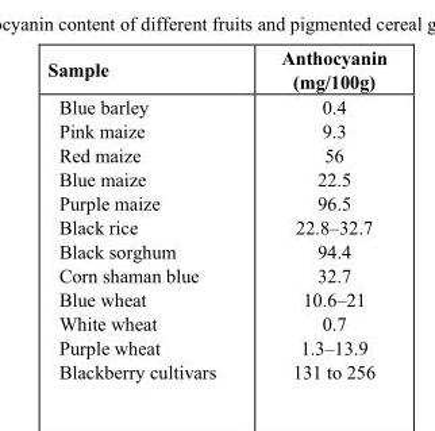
<table><thead><tr><td>Sample</td><td>Anthocyanin (mg/100g)</td></tr></thead><tbody><tr><td>Blue barley</td><td>0.4</td></tr><tr><td>Pink maize</td><td>9.3</td></tr><tr><td>Red maize</td><td>56</td></tr><tr><td>Blue maize</td><td>22.5</td></tr><tr><td>Purple maize</td><td>96.5</td></tr><tr><td>Black rice</td><td>22.8–32.7</td></tr><tr><td>Black sorghum</td><td>94.4</td></tr><tr><td>Corn shaman blue</td><td>32.7</td></tr><tr><td>Blue wheat</td><td>10.6–21</td></tr><tr><td>White wheat</td><td>0.7</td></tr><tr><td>Purple wheat</td><td>1.3–13.9</td></tr><tr><td>Blackberry cultivars</td><td>131 to 256</td></tr></tbody></table>